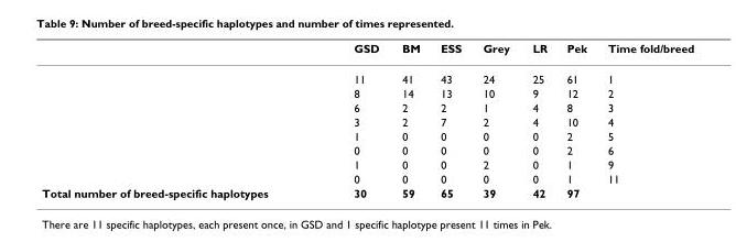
<table><thead><tr><td></td><td>GSD</td><td>BM</td><td>ESS</td><td>Grey</td><td>LR</td><td>Pek</td><td>Time fold/breed</td></tr></thead><tbody><tr><td></td><td>11</td><td>41</td><td>43</td><td>24</td><td>25</td><td>61</td><td>1</td></tr><tr><td></td><td>8</td><td>14</td><td>13</td><td>10</td><td>9</td><td>12</td><td>2</td></tr><tr><td></td><td>6</td><td>2</td><td>2</td><td>1</td><td>4</td><td>8</td><td>3</td></tr><tr><td></td><td>3</td><td>2</td><td>7</td><td>2</td><td>4</td><td>10</td><td>4</td></tr><tr><td></td><td>1</td><td>0</td><td>0</td><td>0</td><td>0</td><td>2</td><td>5</td></tr><tr><td></td><td>0</td><td>0</td><td>0</td><td>0</td><td>0</td><td>2</td><td>6</td></tr><tr><td></td><td>1</td><td>0</td><td>0</td><td>2</td><td>0</td><td>1</td><td>9</td></tr><tr><td></td><td>0</td><td>0</td><td>0</td><td>0</td><td>0</td><td>1</td><td>11</td></tr><tr><td>Total number of breed-specific haplotypes</td><td>30</td><td>59</td><td>65</td><td>39</td><td>42</td><td>97</td><td></td></tr></tbody></table>